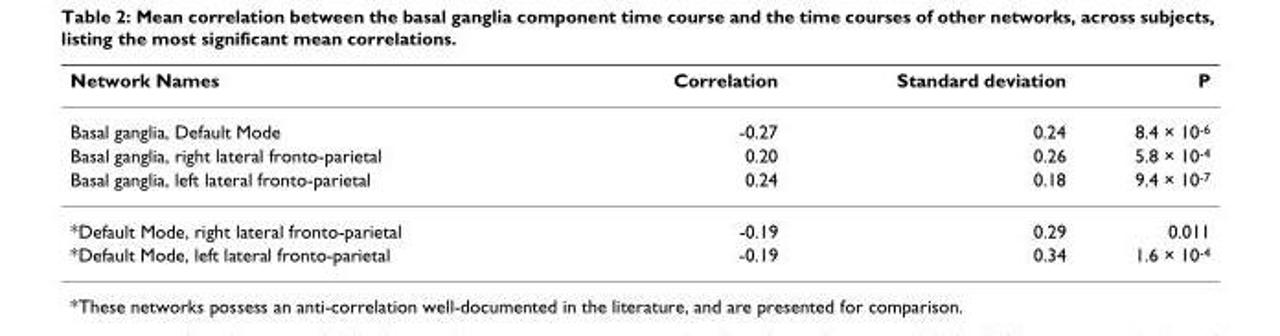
<table><thead><tr><td>Network Names</td><td>Correlation</td><td>Standard deviation</td><td>P</td></tr></thead><tbody><tr><td>Basal ganglia, Default Mode</td><td>-0.27</td><td>0.24</td><td>8.4 × 10<sup>-6</sup></td></tr><tr><td>Basal ganglia, right lateral fronto-parietal</td><td>0.20</td><td>0.26</td><td>5.8 × 10<sup>-4</sup></td></tr><tr><td>Basal ganglia, left lateral fronto-parietal</td><td>0.24</td><td>0.18</td><td>9.4 × 10<sup>-7</sup></td></tr><tr><td>*Default Mode, right lateral fronto-parietal</td><td>-0.19</td><td>0.29</td><td>0.011</td></tr><tr><td>*Default Mode, left lateral fronto-parietal</td><td>-0.19</td><td>0.34</td><td>1.6 × 10<sup>-4</sup></td></tr></tbody></table>